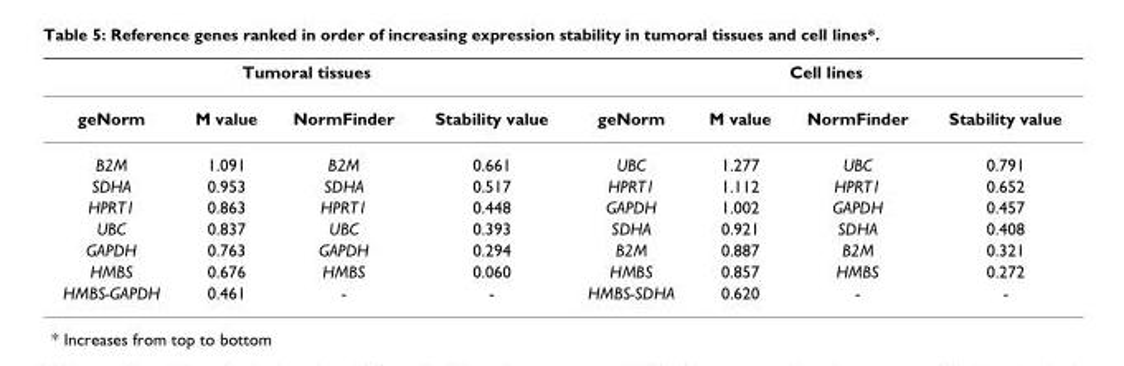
<table><thead><tr><td colspan="4">Tumoral tissues</td><td colspan="4">Cell lines</td></tr><tr><td>geNorm</td><td>M value</td><td>NormFinder</td><td>Stability value</td><td>geNorm</td><td>M value</td><td>NormFinder</td><td>Stability value</td></tr></thead><tbody><tr><td>B2M</td><td>1.091</td><td>B2M</td><td>0.661</td><td>UBC</td><td>1.277</td><td>UBC</td><td>0.791</td></tr><tr><td>SDHA</td><td>0.953</td><td>SDHA</td><td>0.517</td><td>HPRT1</td><td>1.112</td><td>HPRT1</td><td>0.652</td></tr><tr><td>HPRT1</td><td>0.863</td><td>HPRT1</td><td>0.448</td><td>GAPDH</td><td>1.002</td><td>GAPDH</td><td>0.457</td></tr><tr><td>UBC</td><td>0.837</td><td>UBC</td><td>0.393</td><td>SDHA</td><td>0.921</td><td>SDHA</td><td>0.408</td></tr><tr><td>GAPDH</td><td>0.763</td><td>GAPDH</td><td>0.294</td><td>B2M</td><td>0.887</td><td>B2M</td><td>0.321</td></tr><tr><td>HMBS</td><td>0.676</td><td>HMBS</td><td>0.060</td><td>HMBS</td><td>0.857</td><td>HMBS</td><td>0.272</td></tr><tr><td>HMBS-GAPDH</td><td>0.461</td><td>-</td><td>-</td><td>HMBS-SDHA</td><td>0.620</td><td>-</td><td>-</td></tr></tbody></table>